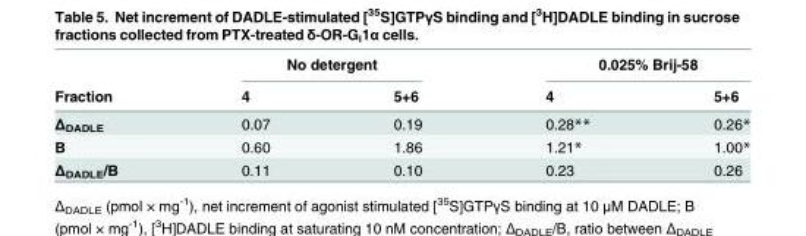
<table><thead><tr><td rowspan="2">Fraction</td><td colspan="2">No detergent</td><td colspan="2">0.025% Brij-58</td></tr><tr><td>4</td><td>5+6</td><td>4</td><td>5+6</td></tr></thead><tbody><tr><td>Δ<sub>DADLE</sub></td><td>0.07</td><td>0.19</td><td>0.28**</td><td>0.26*</td></tr><tr><td>B</td><td>0.60</td><td>1.86</td><td>1.21*</td><td>1.00*</td></tr><tr><td>Δ<sub>DADLE</sub>/B</td><td>0.11</td><td>0.10</td><td>0.23</td><td>0.26</td></tr></tbody></table>